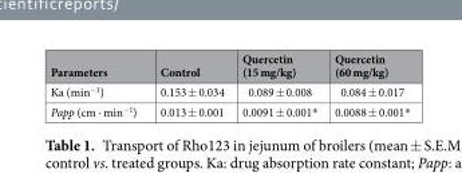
<table><thead><tr><td>Parameters</td><td>Control</td><td>Quercetin (15 mg/kg)</td><td>Quercetin (60 mg/kg)</td></tr></thead><tbody><tr><td>Ka (min<sup>−1</sup>)</td><td>0.153 ± 0.034</td><td>0.089 ± 0.008</td><td>0.084 ± 0.017</td></tr><tr><td>Papp (cm ∙ min<sup>−1</sup>)</td><td>0.013 ± 0.001</td><td>0.0091 ± 0.001*</td><td>0.0088 ± 0.001*</td></tr></tbody></table>